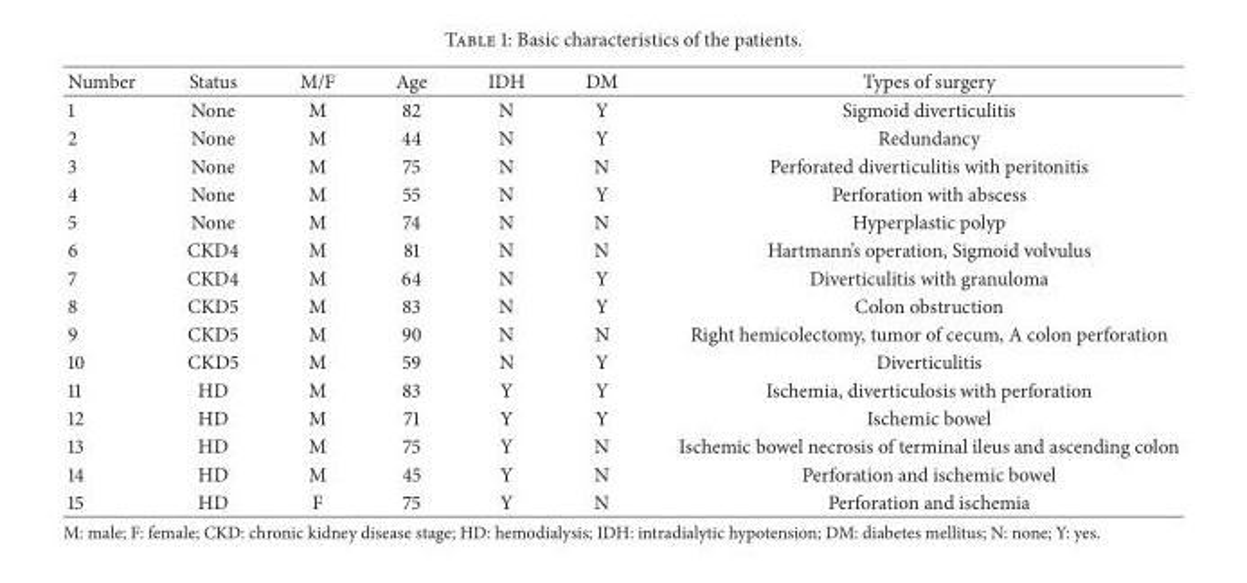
<table><thead><tr><td>Number</td><td>Status</td><td>M/F</td><td>Age</td><td>IDH</td><td>DM</td><td>Types of surgery</td></tr></thead><tbody><tr><td>1</td><td>None</td><td>M</td><td>82</td><td>N</td><td>Y</td><td>Sigmoid diverticulitis</td></tr><tr><td>2</td><td>None</td><td>M</td><td>44</td><td>N</td><td>Y</td><td>Redundancy</td></tr><tr><td>3</td><td>None</td><td>M</td><td>75</td><td>N</td><td>N</td><td>Perforated diverticulitis with peritonitis</td></tr><tr><td>4</td><td>None</td><td>M</td><td>55</td><td>N</td><td>Y</td><td>Perforation with abscess</td></tr><tr><td>5</td><td>None</td><td>M</td><td>74</td><td>N</td><td>N</td><td>Hyperplastic polyp</td></tr><tr><td>6</td><td>CKD4</td><td>M</td><td>81</td><td>N</td><td>N</td><td>Hartmann’s operation, Sigmoid volvulus</td></tr><tr><td>7</td><td>CKD4</td><td>M</td><td>64</td><td>N</td><td>Y</td><td>Diverticulitis with granuloma</td></tr><tr><td>8</td><td>CKD5</td><td>M</td><td>83</td><td>N</td><td>Y</td><td>Colon obstruction</td></tr><tr><td>9</td><td>CKD5</td><td>M</td><td>90</td><td>N</td><td>N</td><td>Right hemicolectomy, tumor of cecum, A colon perforation</td></tr><tr><td>10</td><td>CKD5</td><td>M</td><td>59</td><td>N</td><td>Y</td><td>Diverticulitis</td></tr><tr><td>11</td><td>HD</td><td>M</td><td>83</td><td>Y</td><td>Y</td><td>Ischemia, diverticulosis with perforation</td></tr><tr><td>12</td><td>HD</td><td>M</td><td>71</td><td>Y</td><td>Y</td><td>Ischemic bowel</td></tr><tr><td>13</td><td>HD</td><td>M</td><td>75</td><td>Y</td><td>N</td><td>Ischemic bowel necrosis of terminal ileus and ascending colon</td></tr><tr><td>14</td><td>HD</td><td>M</td><td>45</td><td>Y</td><td>N</td><td>Perforation and ischemic bowel</td></tr><tr><td>15</td><td>HD</td><td>F</td><td>75</td><td>Y</td><td>N</td><td>Perforation and ischemia</td></tr></tbody></table>